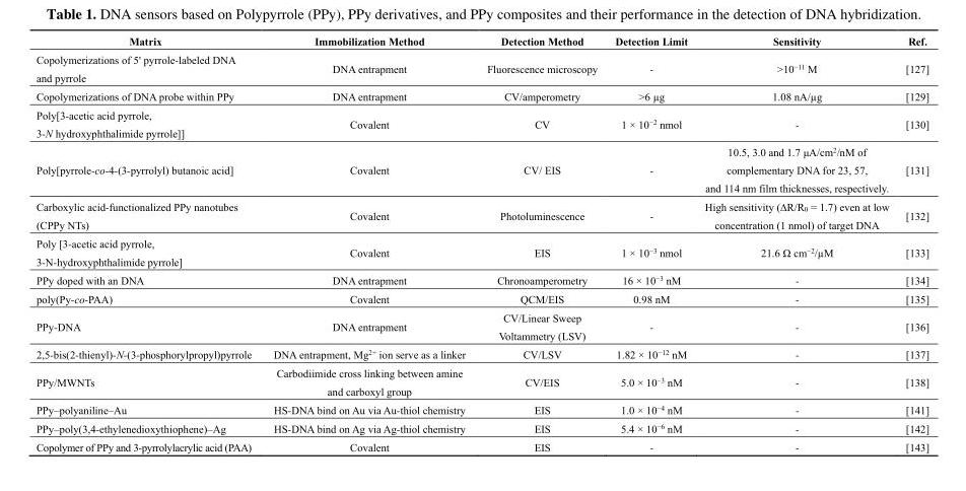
<table><thead><tr><td>Matrix</td><td>Immobilization Method</td><td>Detection Method</td><td>Detection Limit</td><td>Sensitivity</td><td>Ref.</td></tr></thead><tbody><tr><td>Copolymerizations of 5&#x27; pyrrole-labeled DNA and pyrrole</td><td>DNA entrapment</td><td>Fluorescence microscopy</td><td>-</td><td>&gt;10<sup>−11</sup> M</td><td>[127]</td></tr><tr><td>Copolymerizations of DNA probe within PPy</td><td>DNA entrapment</td><td>CV/amperometry</td><td>&gt;6 µg</td><td>1.08 nA/µg</td><td>[129]</td></tr><tr><td>Poly[3-acetic acid pyrrole, 3-N hydroxyphthalimide pyrrole]]</td><td>Covalent</td><td>CV</td><td>1 × 10<sup>−2</sup> nmol</td><td>-</td><td>[130]</td></tr><tr><td>Poly[pyrrole-co-4-(3-pyrrolyl) butanoic acid]</td><td>Covalent</td><td>CV/ EIS</td><td>-</td><td>10.5, 3.0 and 1.7 μA/cm<sup>2</sup>/nM of complementary DNA for 23, 57, and 114 nm film thicknesses, respectively.</td><td>[131]</td></tr><tr><td>Carboxylic acid-functionalized PPy nanotubes (CPPy NTs)</td><td>Covalent</td><td>Photoluminescence</td><td>-</td><td>High sensitivity (∆R/R0 = 1.7) even at low concentration (1 nmol) of target DNA</td><td>[132]</td></tr><tr><td>Poly [3-acetic acid pyrrole, 3-N-hydroxyphthalimide pyrrole]</td><td>Covalent</td><td>EIS</td><td>1 × 10<sup>−3</sup> nmol</td><td>21.6 Ω cm<sup>−2</sup>/µM</td><td>[133]</td></tr><tr><td>PPy doped with an DNA</td><td>DNA entrapment</td><td>Chronoamperometry</td><td>16 × 10<sup>−3</sup> nM</td><td>-</td><td>[134]</td></tr><tr><td>poly(Py-co-PAA)</td><td>Covalent</td><td>QCM/EIS</td><td>0.98 nM</td><td>-</td><td>[135]</td></tr><tr><td>PPy-DNA</td><td>DNA entrapment</td><td>CV/Linear Sweep Voltammetry (LSV)</td><td>-</td><td>-</td><td>[136]</td></tr><tr><td>2,5-bis(2-thienyl)-N-(3-phosphorylpropyl)pyrrole</td><td>DNA entrapment, Mg<sup>2+</sup> ion serve as a linker</td><td>CV/LSV</td><td>1.82 × 10<sup>−12</sup> nM</td><td>-</td><td>[137]</td></tr><tr><td>PPy/MWNTs</td><td>Carbodiimide cross linking between amine and carboxyl group</td><td>CV/EIS</td><td>5.0 × 10<sup>−3</sup> nM</td><td>-</td><td>[138]</td></tr><tr><td>PPy–polyaniline–Au</td><td>HS-DNA bind on Au via Au-thiol chemistry</td><td>EIS</td><td>1.0 × 10<sup>−4</sup> nM</td><td>-</td><td>[141]</td></tr><tr><td>PPy–poly(3,4-ethylenedioxythiophene)–Ag</td><td>HS-DNA bind on Ag via Ag-thiol chemistry</td><td>EIS</td><td>5.4 × 10<sup>−6</sup> nM</td><td>-</td><td>[142]</td></tr><tr><td>Copolymer of PPy and 3-pyrrolylacrylic acid (PAA)</td><td>Covalent</td><td>EIS</td><td>-</td><td>-</td><td>[143]</td></tr></tbody></table>